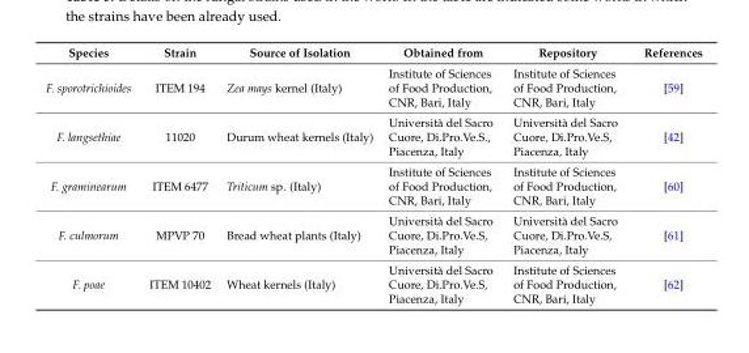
<table><thead><tr><td>Species</td><td>Strain</td><td>Source of Isolation</td><td>Obtained from</td><td>Repository</td><td>References</td></tr></thead><tbody><tr><td>F. sporotrichioides</td><td>ITEM 194</td><td>Zea mays kernel (Italy)</td><td>Institute of Sciences of Food Production, CNR, Bari, Italy</td><td>Institute of Sciences of Food Production, CNR, Bari, Italy</td><td>[59]</td></tr><tr><td>F. langsethiae</td><td>11020</td><td>Durum wheat kernels (Italy)</td><td>Università del Sacro Cuore, Di.Pro.Ve.S., Piacenza, Italy</td><td>Università del Sacro Cuore, Di.Pro.Ve.S, Piacenza, Italy</td><td>[42]</td></tr><tr><td>F. graminearum</td><td>ITEM 6477</td><td>Triticum sp. (Italy)</td><td>Institute of Sciences of Food Production, CNR, Bari, Italy</td><td>Institute of Sciences of Food Production, CNR, Bari, Italy</td><td>[60]</td></tr><tr><td>F. culmorum</td><td>MPVP 70</td><td>Bread wheat plants (Italy)</td><td>Università del Sacro Cuore, Di.Pro.Ve.S, Piacenza, Italy</td><td>Università del Sacro Cuore, Di.Pro.Ve.S, Piacenza, Italy</td><td>[61]</td></tr><tr><td>F. poae</td><td>ITEM 10402</td><td>Wheat kernels (Italy)</td><td>Università del Sacro Cuore, Di.Pro.Ve.S, Piacenza, Italy</td><td>Institute of Sciences of Food Production, CNR, Bari, Italy</td><td>[62]</td></tr></tbody></table>